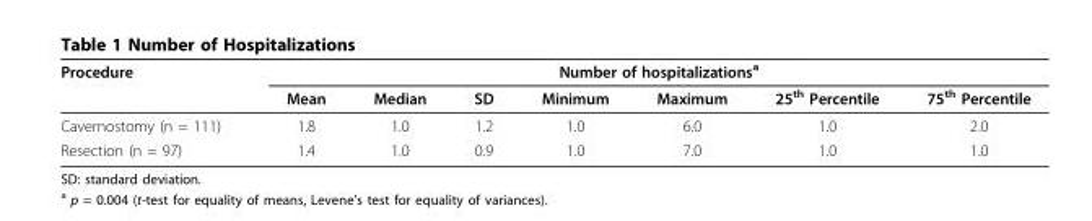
<table><thead><tr><td rowspan="2">Procedure</td><td colspan="7">Number of hospitalizations<sup>a</sup></td></tr><tr><td>Mean</td><td>Median</td><td>SD</td><td>Minimum</td><td>Maximum</td><td>25<sup>th</sup> Percentile</td><td>75<sup>th</sup> Percentile</td></tr></thead><tbody><tr><td>Cavernostomy (n = 111)</td><td>1.8</td><td>1.0</td><td>1.2</td><td>1.0</td><td>6.0</td><td>1.0</td><td>2.0</td></tr><tr><td>Resection (n = 97)</td><td>1.4</td><td>1.0</td><td>0.9</td><td>1.0</td><td>7.0</td><td>1.0</td><td>1.0</td></tr></tbody></table>